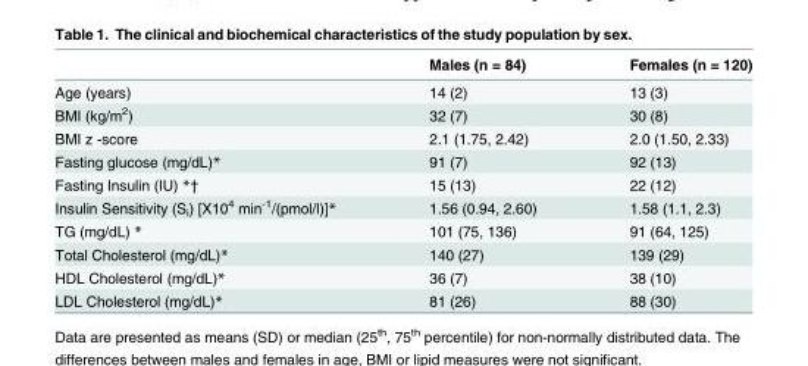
<table><thead><tr><td></td><td>Males (n = 84)</td><td>Females (n = 120)</td></tr></thead><tbody><tr><td>Age (years)</td><td>14 (2)</td><td>13 (3)</td></tr><tr><td>BMI (kg/m<sup>2</sup>)</td><td>32 (7)</td><td>30 (8)</td></tr><tr><td>BMI z -score</td><td>2.1 (1.75, 2.42)</td><td>2.0 (1.50, 2.33)</td></tr><tr><td>Fasting glucose (mg/dL)*</td><td>91 (7)</td><td>92 (13)</td></tr><tr><td>Fasting Insulin (IU) *†</td><td>15 (13)</td><td>22 (12)</td></tr><tr><td>Insulin Sensitivity (S<sub>i</sub>) [X10<sup>4</sup> min<sup>-1</sup>/(pmol/l)]*</td><td>1.56 (0.94, 2.60)</td><td>1.58 (1.1, 2.3)</td></tr><tr><td>TG (mg/dL) *</td><td>101 (75, 136)</td><td>91 (64, 125)</td></tr><tr><td>Total Cholesterol (mg/dL)*</td><td>140 (27)</td><td>139 (29)</td></tr><tr><td>HDL Cholesterol (mg/dL)*</td><td>36 (7)</td><td>38 (10)</td></tr><tr><td>LDL Cholesterol (mg/dL)*</td><td>81 (26)</td><td>88 (30)</td></tr></tbody></table>